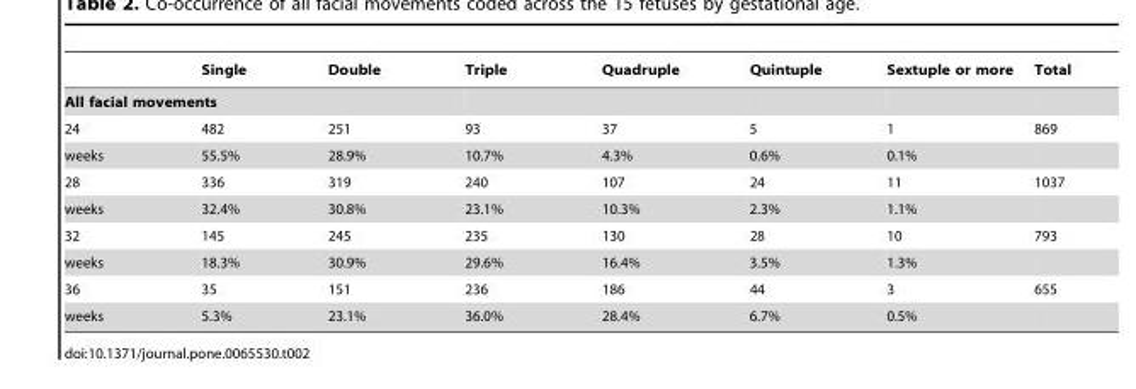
<table><thead><tr><td></td><td>Single</td><td>Double</td><td>Triple</td><td>Quadruple</td><td>Quintuple</td><td>Sextuple or more</td><td>Total</td></tr></thead><tbody><tr><td colspan="8">All facial movements</td></tr><tr><td>24</td><td>482</td><td>251</td><td>93</td><td>37</td><td>5</td><td>1</td><td>869</td></tr><tr><td>weeks</td><td>55.5%</td><td>28.9%</td><td>10.7%</td><td>4.3%</td><td>0.6%</td><td>0.1%</td><td></td></tr><tr><td>28</td><td>336</td><td>319</td><td>240</td><td>107</td><td>24</td><td>11</td><td>1037</td></tr><tr><td>weeks</td><td>32.4%</td><td>30.8%</td><td>23.1%</td><td>10.3%</td><td>2.3%</td><td>1.1%</td><td></td></tr><tr><td>32</td><td>145</td><td>245</td><td>235</td><td>130</td><td>28</td><td>10</td><td>793</td></tr><tr><td>weeks</td><td>18.3%</td><td>30.9%</td><td>29.6%</td><td>16.4%</td><td>3.5%</td><td>1.3%</td><td></td></tr><tr><td>36</td><td>35</td><td>151</td><td>236</td><td>186</td><td>44</td><td>3</td><td>655</td></tr><tr><td>weeks</td><td>5.3%</td><td>23.1%</td><td>36.0%</td><td>28.4%</td><td>6.7%</td><td>0.5%</td><td></td></tr></tbody></table>